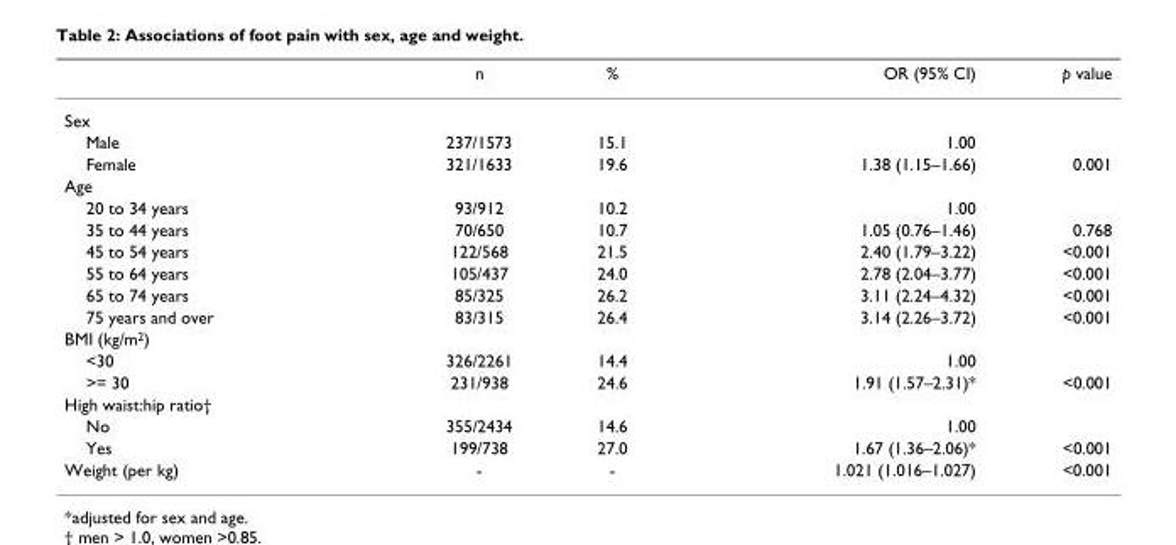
<table><thead><tr><td></td><td>n</td><td>%</td><td>OR (95% CI)</td><td>p value</td></tr></thead><tbody><tr><td colspan="5">Sex</td></tr><tr><td>Male</td><td>237/1573</td><td>15.1</td><td>1.00</td><td></td></tr><tr><td>Female</td><td>321/1633</td><td>19.6</td><td>1.38 (1.15–1.66)</td><td>0.001</td></tr><tr><td colspan="5">Age</td></tr><tr><td>20 to 34 years</td><td>93/912</td><td>10.2</td><td>1.00</td><td></td></tr><tr><td>35 to 44 years</td><td>70/650</td><td>10.7</td><td>1.05 (0.76–1.46)</td><td>0.768</td></tr><tr><td>45 to 54 years</td><td>122/568</td><td>21.5</td><td>2.40 (1.79–3.22)</td><td>&lt;0.001</td></tr><tr><td>55 to 64 years</td><td>105/437</td><td>24.0</td><td>2.78 (2.04–3.77)</td><td>&lt;0.001</td></tr><tr><td>65 to 74 years</td><td>85/325</td><td>26.2</td><td>3.11 (2.24–4.32)</td><td>&lt;0.001</td></tr><tr><td>75 years and over</td><td>83/315</td><td>26.4</td><td>3.14 (2.26–3.72)</td><td>&lt;0.001</td></tr><tr><td colspan="5">BMI (kg/m<sup>2</sup>)</td></tr><tr><td>&lt;30</td><td>326/2261</td><td>14.4</td><td>1.00</td><td></td></tr><tr><td>&gt;= 30</td><td>231/938</td><td>24.6</td><td>1.91 (1.57–2.31)*</td><td>&lt;0.001</td></tr><tr><td colspan="5">High waist:hip ratio†</td></tr><tr><td>No</td><td>355/2434</td><td>14.6</td><td>1.00</td><td></td></tr><tr><td>Yes</td><td>199/738</td><td>27.0</td><td>1.67 (1.36–2.06)*</td><td>&lt;0.001</td></tr><tr><td>Weight (per kg)</td><td>-</td><td>-</td><td>1.021 (1.016–1.027)</td><td>&lt;0.001</td></tr></tbody></table>